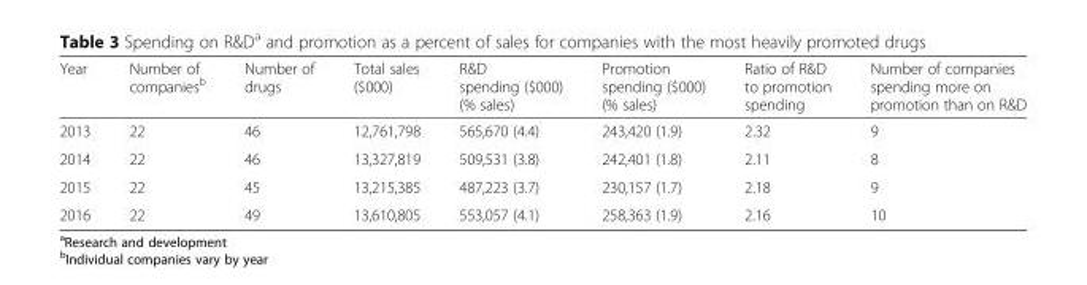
<table><thead><tr><td>Year</td><td>Number of companies<sup>b</sup></td><td>Number of drugs</td><td>Total sales ($000)</td><td>R&amp;D spending ($000) (% sales)</td><td>Promotion spending ($000) (% sales)</td><td>Ratio of R&amp;D to promotion spending</td><td>Number of companies spending more on promotion than on R&amp;D</td></tr></thead><tbody><tr><td>2013</td><td>22</td><td>46</td><td>12,761,798</td><td>565,670 (4.4)</td><td>243,420 (1.9)</td><td>2.32</td><td>9</td></tr><tr><td>2014</td><td>22</td><td>46</td><td>13,327,819</td><td>509,531 (3.8)</td><td>242,401 (1.8)</td><td>2.11</td><td>8</td></tr><tr><td>2015</td><td>22</td><td>45</td><td>13,215,385</td><td>487,223 (3.7)</td><td>230,157 (1.7)</td><td>2.18</td><td>9</td></tr><tr><td>2016</td><td>22</td><td>49</td><td>13,610,805</td><td>553,057 (4.1)</td><td>258,363 (1.9)</td><td>2.16</td><td>10</td></tr></tbody></table>